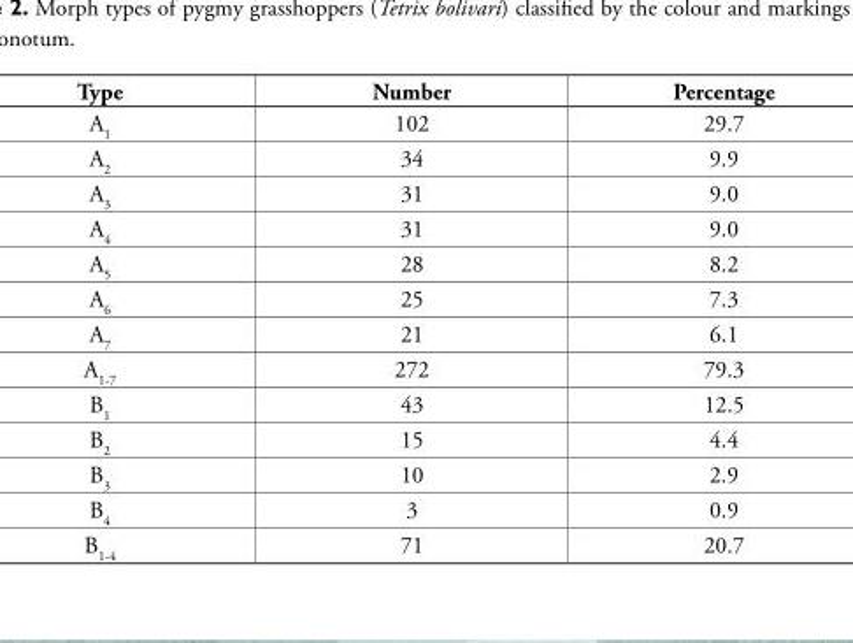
<table><thead><tr><td>Type</td><td>Number</td><td>Percentage</td></tr></thead><tbody><tr><td>A<sub>1</sub></td><td>102</td><td>29.7</td></tr><tr><td>A<sub>2</sub></td><td>34</td><td>9.9</td></tr><tr><td>A<sub>3</sub></td><td>31</td><td>9.0</td></tr><tr><td>A<sub>4</sub></td><td>31</td><td>9.0</td></tr><tr><td>A<sub>5</sub></td><td>28</td><td>8.2</td></tr><tr><td>A<sub>6</sub></td><td>25</td><td>7.3</td></tr><tr><td>A<sub>7</sub></td><td>21</td><td>6.1</td></tr><tr><td>A<sub>1-7</sub></td><td>272</td><td>79.3</td></tr><tr><td>B<sub>1</sub></td><td>43</td><td>12.5</td></tr><tr><td>B<sub>2</sub></td><td>15</td><td>4.4</td></tr><tr><td>B<sub>3</sub></td><td>10</td><td>2.9</td></tr><tr><td>B<sub>4</sub></td><td>3</td><td>0.9</td></tr><tr><td>B<sub>1-4</sub></td><td>71</td><td>20.7</td></tr></tbody></table>